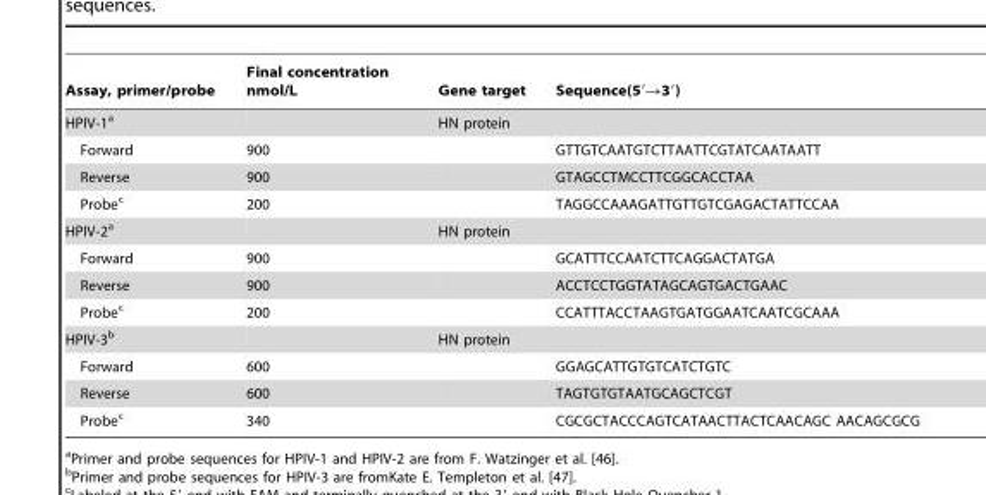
<table><thead><tr><td>Assay, primer/probe</td><td>Final concentration nmol/L</td><td>Gene target</td><td>Sequence(5′→3′)</td></tr></thead><tbody><tr><td>HPIV-1<sup>a</sup></td><td></td><td>HN protein</td><td></td></tr><tr><td>Forward</td><td>900</td><td></td><td>GTTGTCAATGTCTTAATTCGTATCAATAATT</td></tr><tr><td>Reverse</td><td>900</td><td></td><td>GTAGCCTMCCTTCGGCACCTAA</td></tr><tr><td>Probe<sup>c</sup></td><td>200</td><td></td><td>TAGGCCAAAGATTGTTGTCGAGACTATTCCAA</td></tr><tr><td>HPIV-2<sup>a</sup></td><td></td><td>HN protein</td><td></td></tr><tr><td>Forward</td><td>900</td><td></td><td>GCATTTCCAATCTTCAGGACTATGA</td></tr><tr><td>Reverse</td><td>900</td><td></td><td>ACCTCCTGGTATAGCAGTGACTGAAC</td></tr><tr><td>Probe<sup>c</sup></td><td>200</td><td></td><td>CCATTTACCTAAGTGATGGAATCAATCGCAAA</td></tr><tr><td>HPIV-3<sup>b</sup></td><td></td><td>HN protein</td><td></td></tr><tr><td>Forward</td><td>600</td><td></td><td>GGAGCATTGTGTCATCTGTC</td></tr><tr><td>Reverse</td><td>600</td><td></td><td>TAGTGTGTAATGCAGCTCGT</td></tr><tr><td>Probe<sup>c</sup></td><td>340</td><td></td><td>CGCGCTACCCAGTCATAACTTACTCAACAGC AACAGCGCG</td></tr></tbody></table>